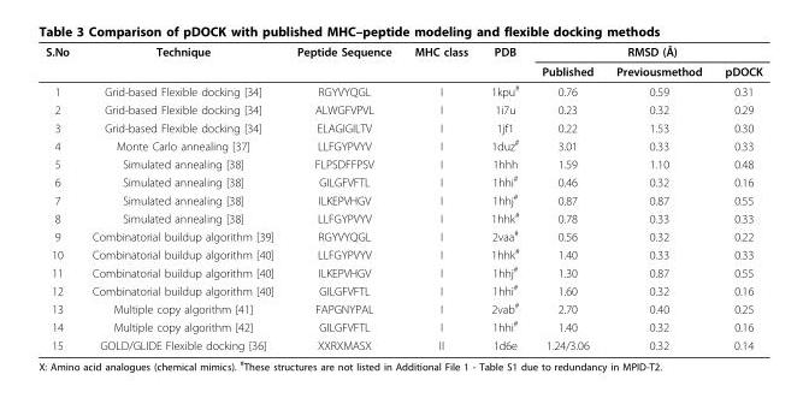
<table><thead><tr><td rowspan="2">S.No</td><td rowspan="2">Technique</td><td rowspan="2">Peptide Sequence</td><td rowspan="2">MHC class</td><td rowspan="2">PDB</td><td colspan="3">RMSD (Å)</td></tr><tr><td>Published</td><td>Previousmethod</td><td>pDOCK</td></tr></thead><tbody><tr><td>1</td><td>Grid-based Flexible docking [34]</td><td>RGYVYQGL</td><td>I</td><td>1kpu<sup>#</sup></td><td>0.76</td><td>0.59</td><td>0.31</td></tr><tr><td>2</td><td>Grid-based Flexible docking [34]</td><td>ALWGFVPVL</td><td>I</td><td>1i7u</td><td>0.23</td><td>0.32</td><td>0.29</td></tr><tr><td>3</td><td>Grid-based Flexible docking [34]</td><td>ELAGIGILTV</td><td>I</td><td>1jf1</td><td>0.22</td><td>1.53</td><td>0.30</td></tr><tr><td>4</td><td>Monte Carlo annealing [37]</td><td>LLFGYPVYV</td><td>I</td><td>1duz<sup>#</sup></td><td>3.01</td><td>0.33</td><td>0.33</td></tr><tr><td>5</td><td>Simulated annealing [38]</td><td>FLPSDFFPSV</td><td>I</td><td>1hhh</td><td>1.59</td><td>1.10</td><td>0.48</td></tr><tr><td>6</td><td>Simulated annealing [38]</td><td>GILGFVFTL</td><td>I</td><td>1hhi<sup>#</sup></td><td>0.46</td><td>0.32</td><td>0.16</td></tr><tr><td>7</td><td>Simulated annealing [38]</td><td>ILKEPVHGV</td><td>I</td><td>1hhj<sup>#</sup></td><td>0.87</td><td>0.87</td><td>0.55</td></tr><tr><td>8</td><td>Simulated annealing [38]</td><td>LLFGYPVYV</td><td>I</td><td>1hhk<sup>#</sup></td><td>0.78</td><td>0.33</td><td>0.33</td></tr><tr><td>9</td><td>Combinatorial buildup algorithm [39]</td><td>RGYVYQGL</td><td>I</td><td>2vaa<sup>#</sup></td><td>0.56</td><td>0.32</td><td>0.22</td></tr><tr><td>10</td><td>Combinatorial buildup algorithm [40]</td><td>LLFGYPVYV</td><td>I</td><td>1hhk<sup>#</sup></td><td>1.40</td><td>0.33</td><td>0.33</td></tr><tr><td>11</td><td>Combinatorial buildup algorithm [40]</td><td>ILKEPVHGV</td><td>I</td><td>1hhj<sup>#</sup></td><td>1.30</td><td>0.87</td><td>0.55</td></tr><tr><td>12</td><td>Combinatorial buildup algorithm [40]</td><td>GILGFVFTL</td><td>I</td><td>1hhi<sup>#</sup></td><td>1.60</td><td>0.32</td><td>0.16</td></tr><tr><td>13</td><td>Multiple copy algorithm [41]</td><td>FAPGNYPAL</td><td>I</td><td>2vab<sup>#</sup></td><td>2.70</td><td>0.40</td><td>0.25</td></tr><tr><td>14</td><td>Multiple copy algorithm [42]</td><td>GILGFVFTL</td><td>I</td><td>1hhi<sup>#</sup></td><td>1.40</td><td>0.32</td><td>0.16</td></tr><tr><td>15</td><td>GOLD/GLIDE Flexible docking [36]</td><td>XXRXMASX</td><td>II</td><td>1d6e</td><td>1.24/3.06</td><td>0.32</td><td>0.14</td></tr></tbody></table>